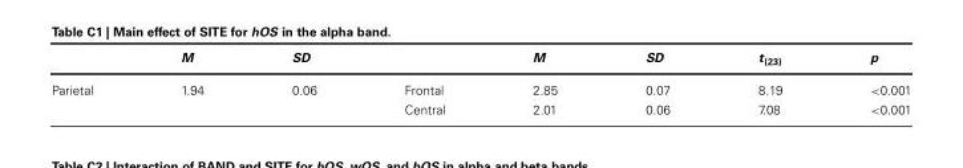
<table><thead><tr><td></td><td>M</td><td>SD</td><td></td><td>M</td><td>SD</td><td>t<sub>(23)</sub></td><td>p</td></tr></thead><tbody><tr><td rowspan="2">Parietal</td><td>1.94</td><td>0.06</td><td>Frontal</td><td>2.85</td><td>0.07</td><td>8.19</td><td>&lt;0.001</td></tr><tr><td></td><td></td><td>Central</td><td>2.01</td><td>0.06</td><td>7.08</td><td>&lt;0.001</td></tr></tbody></table>